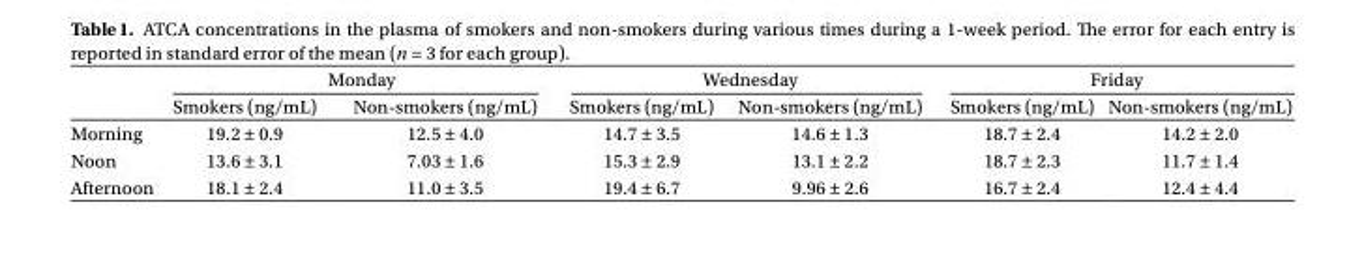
<table><thead><tr><td rowspan="2"></td><td colspan="2">Monday</td><td colspan="2">Wednesday</td><td colspan="2">Friday</td></tr><tr><td>Smokers (ng/mL)</td><td>Non-smokers (ng/mL)</td><td>Smokers (ng/mL)</td><td>Non-smokers (ng/mL)</td><td>Smokers (ng/mL)</td><td>Non-smokers (ng/mL)</td></tr></thead><tbody><tr><td>Morning</td><td>19.2 ± 0.9</td><td>12.5 ± 4.0</td><td>14.7 ± 3.5</td><td>14.6 ± 1.3</td><td>18.7 ± 2.4</td><td>14.2 ± 2.0</td></tr><tr><td>Noon</td><td>13.6 ± 3.1</td><td>7.03 ± 1.6</td><td>15.3 ± 2.9</td><td>13.1 ± 2.2</td><td>18.7 ± 2.3</td><td>11.7 ± 1.4</td></tr><tr><td>Afternoon</td><td>18.1 ± 2.4</td><td>11.0 ± 3.5</td><td>19.4 ± 6.7</td><td>9.96 ± 2.6</td><td>16.7 ± 2.4</td><td>12.4 ± 4.4</td></tr></tbody></table>